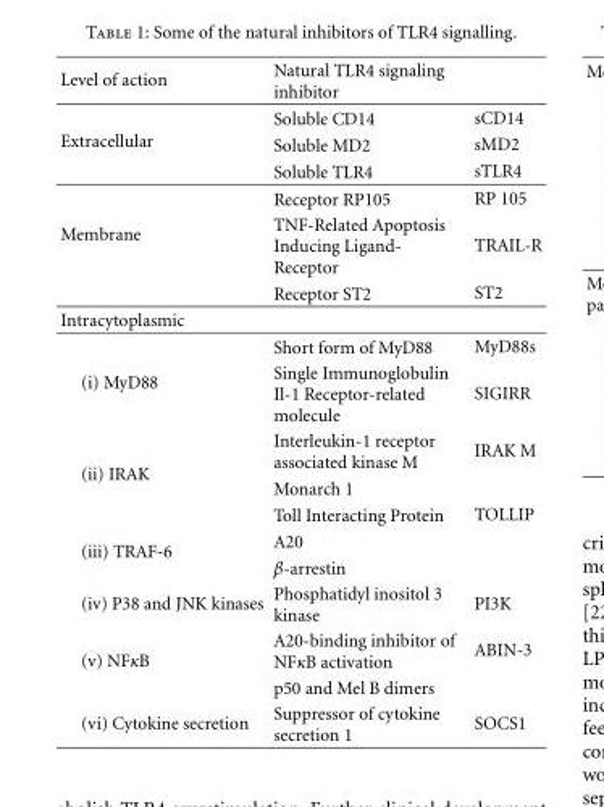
<table><thead><tr><td>Level of action</td><td>Natural TLR4 signaling inhibitor</td><td></td></tr></thead><tbody><tr><td rowspan="3">Extracellular</td><td>Soluble CD14</td><td>sCD14</td></tr><tr><td>Soluble MD2</td><td>sMD2</td></tr><tr><td>Soluble TLR4</td><td>sTLR4</td></tr><tr><td rowspan="3">Membrane</td><td>Receptor RP105</td><td>RP 105</td></tr><tr><td>TNF-Related Apoptosis Inducing Ligand- Receptor</td><td>TRAIL-R</td></tr><tr><td>Receptor ST2</td><td>ST2</td></tr><tr><td colspan="3">Intracytoplasmic</td></tr><tr><td rowspan="2">(i) MyD88</td><td>Short form of MyD88</td><td>MyD88s</td></tr><tr><td>Single Immunoglobulin Il-1 Receptor-related molecule</td><td>SIGIRR</td></tr><tr><td rowspan="3">(ii) IRAK</td><td>Interleukin-1 receptor associated kinase M</td><td>IRAK M</td></tr><tr><td>Monarch 1</td><td></td></tr><tr><td>Toll Interacting Protein</td><td>TOLLIP</td></tr><tr><td rowspan="2">(iii) TRAF-6</td><td>A20</td><td></td></tr><tr><td>β-arrestin</td><td></td></tr><tr><td>(iv) P38 and JNK kinases</td><td>Phosphatidyl inositol 3 kinase</td><td>PI3K</td></tr><tr><td rowspan="2">(v) NFκB</td><td>A20-binding inhibitor of NFκB activation</td><td>ABIN-3</td></tr><tr><td>p50 and Mel B dimers</td><td></td></tr><tr><td>(vi) Cytokine secretion</td><td>Suppressor of cytokine secretion 1</td><td>SOCS1</td></tr></tbody></table>